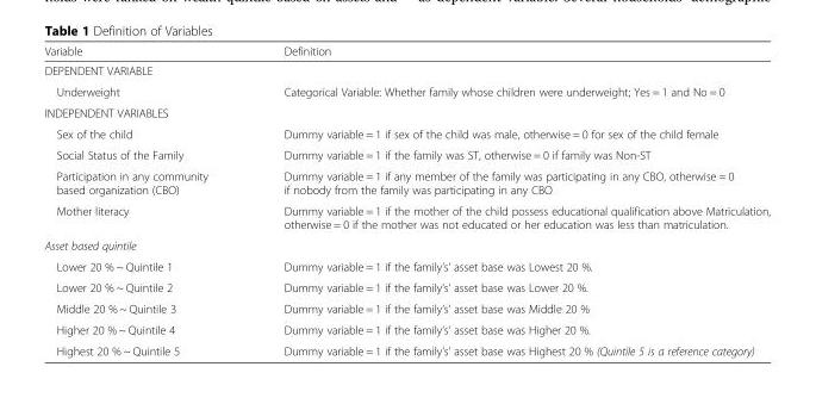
<table><thead><tr><td>Variable</td><td>Definition</td></tr></thead><tbody><tr><td colspan="2">DEPENDENT VARIABLE</td></tr><tr><td>Underweight</td><td>Categorical Variable: Whether family whose children were underweight; Yes = 1 and No = 0</td></tr><tr><td colspan="2">INDEPENDENT VARIABLES</td></tr><tr><td>Sex of the child</td><td>Dummy variable = 1 if sex of the child was male, otherwise = 0 for sex of the child female</td></tr><tr><td>Social Status of the Family</td><td>Dummy variable = 1 if the family was ST, otherwise = 0 if family was Non-ST</td></tr><tr><td>Participation in any community based organization (CBO)</td><td>Dummy variable = 1 if any member of the family was participating in any CBO, otherwise = 0 if nobody from the family was participating in any CBO</td></tr><tr><td>Mother literacy</td><td>Dummy variable = 1 if the mother of the child possess educational qualification above Matriculation, otherwise = 0 if the mother was not educated or her education was less than matriculation.</td></tr><tr><td colspan="2">Asset based quintile</td></tr><tr><td>Lower 20 % ~ Quintile 1</td><td>Dummy variable = 1 if the family’s’ asset base was Lowest 20 %.</td></tr><tr><td>Lower 20 % ~ Quintile 2</td><td>Dummy variable = 1 if the family’s’ asset base was Lower 20 %.</td></tr><tr><td>Middle 20 % ~ Quintile 3</td><td>Dummy variable = 1 if the family’s’ asset base was Middle 20 %</td></tr><tr><td>Higher 20 % ~ Quintile 4</td><td>Dummy variable = 1 if the family’s’ asset base was Higher 20 %.</td></tr><tr><td>Highest 20 % ~ Quintile 5</td><td>Dummy variable = 1 if the family’s’ asset base was Highest 20 % (Quintile 5 is a reference category)</td></tr></tbody></table>